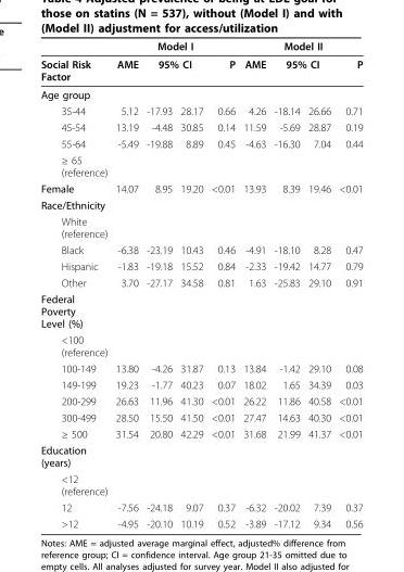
<table><thead><tr><td rowspan="3">Social Risk Factor Age group</td><td colspan="4">Model I</td><td colspan="4">Model II</td></tr><tr><td rowspan="2">AME</td><td colspan="2">95% CI</td><td rowspan="2">P</td><td rowspan="2">AME</td><td colspan="2">95% CI</td><td rowspan="2">P</td></tr><tr><td></td><td></td><td></td><td></td></tr></thead><tbody><tr><td>35-44</td><td>5.12</td><td>-17.93</td><td>28.17</td><td>0.66</td><td>4.26</td><td>-18.14</td><td>26.66</td><td>0.71</td></tr><tr><td>45-54</td><td>13.19</td><td>-4.48</td><td>30.85</td><td>0.14</td><td>11.59</td><td>-5.69</td><td>28.87</td><td>0.19</td></tr><tr><td>55-64</td><td>-5.49</td><td>-19.88</td><td>8.89</td><td>0.45</td><td>-4.63</td><td>-16.30</td><td>7.04</td><td>0.44</td></tr><tr><td colspan="9">≥ 65 (reference)</td></tr><tr><td>Female</td><td>14.07</td><td>8.95</td><td>19.20</td><td>&lt;0.01</td><td>13.93</td><td>8.39</td><td>19.46</td><td>&lt;0.01</td></tr><tr><td colspan="9">Race/Ethnicity</td></tr><tr><td colspan="9">White (reference)</td></tr><tr><td>Black</td><td>-6.38</td><td>-23.19</td><td>10.43</td><td>0.46</td><td>-4.91</td><td>-18.10</td><td>8.28</td><td>0.47</td></tr><tr><td>Hispanic</td><td>-1.83</td><td>-19.18</td><td>15.52</td><td>0.84</td><td>-2.33</td><td>-19.42</td><td>14.77</td><td>0.79</td></tr><tr><td>Other</td><td>3.70</td><td>-27.17</td><td>34.58</td><td>0.81</td><td>1.63</td><td>-25.83</td><td>29.10</td><td>0.91</td></tr><tr><td colspan="9">Federal Poverty Level (%)</td></tr><tr><td colspan="9">&lt;100 (reference)</td></tr><tr><td>100-149</td><td>13.80</td><td>-4.26</td><td>31.87</td><td>0.13</td><td>13.84</td><td>-1.42</td><td>29.10</td><td>0.08</td></tr><tr><td>149-199</td><td>19.23</td><td>-1.77</td><td>40.23</td><td>0.07</td><td>18.02</td><td>1.65</td><td>34.39</td><td>0.03</td></tr><tr><td>200-299</td><td>26.63</td><td>11.96</td><td>41.30</td><td>&lt;0.01</td><td>26.22</td><td>11.86</td><td>40.58</td><td>&lt;0.01</td></tr><tr><td>300-499</td><td>28.50</td><td>15.50</td><td>41.50</td><td>&lt;0.01</td><td>27.47</td><td>14.63</td><td>40.30</td><td>&lt;0.01</td></tr><tr><td>≥ 500</td><td>31.54</td><td>20.80</td><td>42.29</td><td>&lt;0.01</td><td>31.68</td><td>21.99</td><td>41.37</td><td>&lt;0.01</td></tr><tr><td colspan="9">Education (years)</td></tr><tr><td colspan="9">&lt;12 (reference)</td></tr><tr><td>12</td><td>-7.56</td><td>-24.18</td><td>9.07</td><td>0.37</td><td>-6.32</td><td>-20.02</td><td>7.39</td><td>0.37</td></tr><tr><td>&gt;12</td><td>-4.95</td><td>-20.10</td><td>10.19</td><td>0.52</td><td>-3.89</td><td>-17.12</td><td>9.34</td><td>0.56</td></tr></tbody></table>